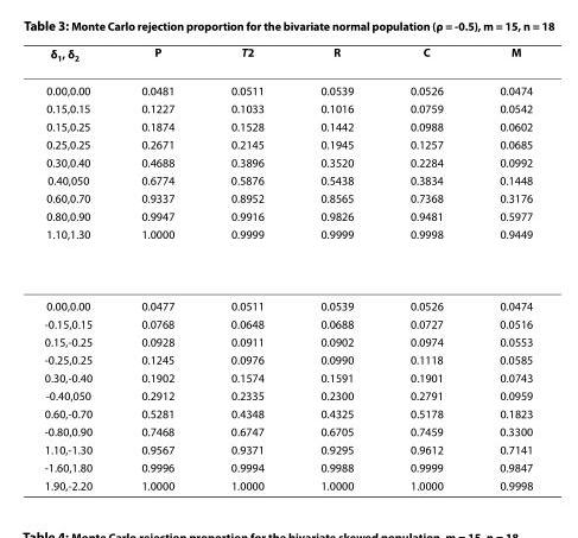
<table><thead><tr><td>δ<sub>1</sub>, δ<sub>2</sub></td><td>P</td><td>T<sup>2</sup></td><td>R</td><td>C</td><td>M</td></tr></thead><tbody><tr><td>0.00,0.00</td><td>0.0481</td><td>0.0511</td><td>0.0539</td><td>0.0526</td><td>0.0474</td></tr><tr><td>0.15,0.15</td><td>0.1227</td><td>0.1033</td><td>0.1016</td><td>0.0759</td><td>0.0542</td></tr><tr><td>0.15,0.25</td><td>0.1874</td><td>0.1528</td><td>0.1442</td><td>0.0988</td><td>0.0602</td></tr><tr><td>0.25,0.25</td><td>0.2671</td><td>0.2145</td><td>0.1945</td><td>0.1257</td><td>0.0685</td></tr><tr><td>0.30,0.40</td><td>0.4688</td><td>0.3896</td><td>0.3520</td><td>0.2284</td><td>0.0992</td></tr><tr><td>0.40,050</td><td>0.6774</td><td>0.5876</td><td>0.5438</td><td>0.3834</td><td>0.1448</td></tr><tr><td>0.60,0.70</td><td>0.9337</td><td>0.8952</td><td>0.8565</td><td>0.7368</td><td>0.3176</td></tr><tr><td>0.80,0.90</td><td>0.9947</td><td>0.9916</td><td>0.9826</td><td>0.9481</td><td>0.5977</td></tr><tr><td>1.10,1.30</td><td>1.0000</td><td>0.9999</td><td>0.9999</td><td>0.9998</td><td>0.9449</td></tr><tr><td>0.00,0.00</td><td>0.0477</td><td>0.0511</td><td>0.0539</td><td>0.0526</td><td>0.0474</td></tr><tr><td>-0.15,0.15</td><td>0.0768</td><td>0.0648</td><td>0.0688</td><td>0.0727</td><td>0.0516</td></tr><tr><td>0.15,-0.25</td><td>0.0928</td><td>0.0911</td><td>0.0902</td><td>0.0974</td><td>0.0553</td></tr><tr><td>-0.25,0.25</td><td>0.1245</td><td>0.0976</td><td>0.0990</td><td>0.1118</td><td>0.0585</td></tr><tr><td>0.30,-0.40</td><td>0.1902</td><td>0.1574</td><td>0.1591</td><td>0.1901</td><td>0.0743</td></tr><tr><td>-0.40,050</td><td>0.2912</td><td>0.2335</td><td>0.2300</td><td>0.2791</td><td>0.0959</td></tr><tr><td>0.60,-0.70</td><td>0.5281</td><td>0.4348</td><td>0.4325</td><td>0.5178</td><td>0.1823</td></tr><tr><td>-0.80,0.90</td><td>0.7468</td><td>0.6747</td><td>0.6705</td><td>0.7459</td><td>0.3300</td></tr><tr><td>1.10,-1.30</td><td>0.9567</td><td>0.9371</td><td>0.9295</td><td>0.9612</td><td>0.7141</td></tr><tr><td>-1.60,1.80</td><td>0.9996</td><td>0.9994</td><td>0.9988</td><td>0.9999</td><td>0.9847</td></tr><tr><td>1.90,-2.20</td><td>1.0000</td><td>1.0000</td><td>1.0000</td><td>1.0000</td><td>0.9998</td></tr></tbody></table>